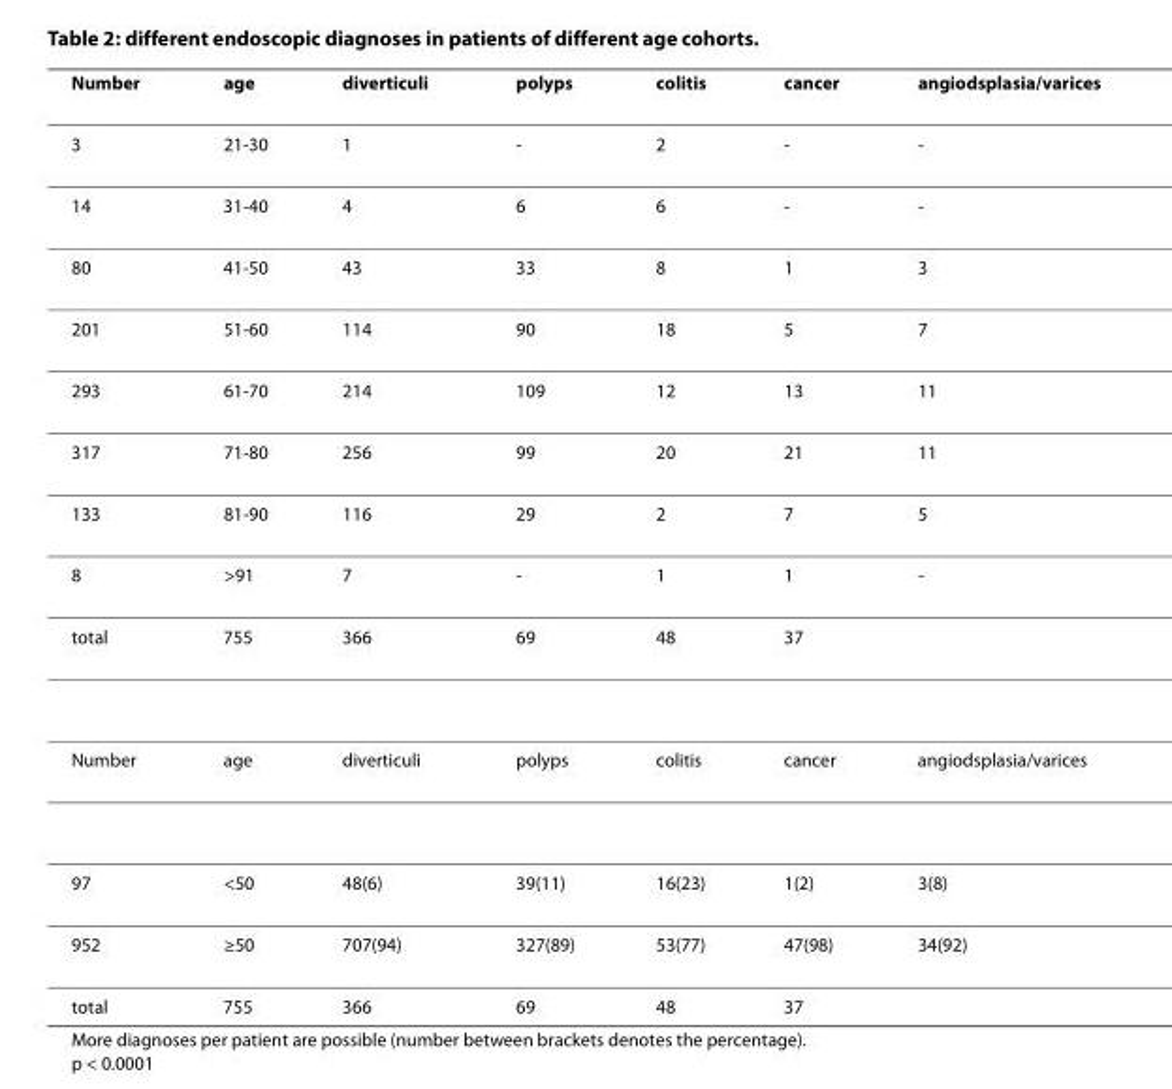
<table><thead><tr><td>Number</td><td>age</td><td>diverticuli</td><td>polyps</td><td>colitis</td><td>cancer</td><td>angiodsplasia/varices</td></tr></thead><tbody><tr><td>3</td><td>21-30</td><td>1</td><td>-</td><td>2</td><td>-</td><td>-</td></tr><tr><td>14</td><td>31-40</td><td>4</td><td>6</td><td>6</td><td>-</td><td>-</td></tr><tr><td>80</td><td>41-50</td><td>43</td><td>33</td><td>8</td><td>1</td><td>3</td></tr><tr><td>201</td><td>51-60</td><td>114</td><td>90</td><td>18</td><td>5</td><td>7</td></tr><tr><td>293</td><td>61-70</td><td>214</td><td>109</td><td>12</td><td>13</td><td>11</td></tr><tr><td>317</td><td>71-80</td><td>256</td><td>99</td><td>20</td><td>21</td><td>11</td></tr><tr><td>133</td><td>81-90</td><td>116</td><td>29</td><td>2</td><td>7</td><td>5</td></tr><tr><td>8</td><td>&gt;91</td><td>7</td><td>-</td><td>1</td><td>1</td><td>-</td></tr><tr><td>total</td><td>755</td><td>366</td><td>69</td><td>48</td><td>37</td><td></td></tr><tr><td>Number</td><td>age</td><td>diverticuli</td><td>polyps</td><td>colitis</td><td>cancer</td><td>angiodsplasia/varices</td></tr><tr><td>97</td><td>&lt;50</td><td>48(6)</td><td>39(11)</td><td>16(23)</td><td>1(2)</td><td>3(8)</td></tr><tr><td>952</td><td>≥50</td><td>707(94)</td><td>327(89)</td><td>53(77)</td><td>47(98)</td><td>34(92)</td></tr><tr><td>total</td><td>755</td><td>366</td><td>69</td><td>48</td><td>37</td><td></td></tr></tbody></table>